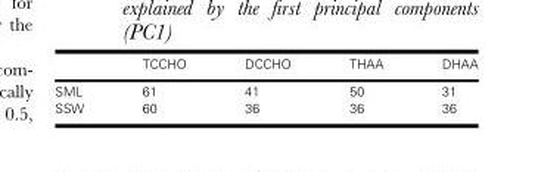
<table><thead><tr><td></td><td>TCCHO</td><td>DCCHO</td><td>THAA</td><td>DHAA</td></tr></thead><tbody><tr><td>SML</td><td>61</td><td>41</td><td>50</td><td>31</td></tr><tr><td>SSW</td><td>60</td><td>36</td><td>36</td><td>36</td></tr></tbody></table>